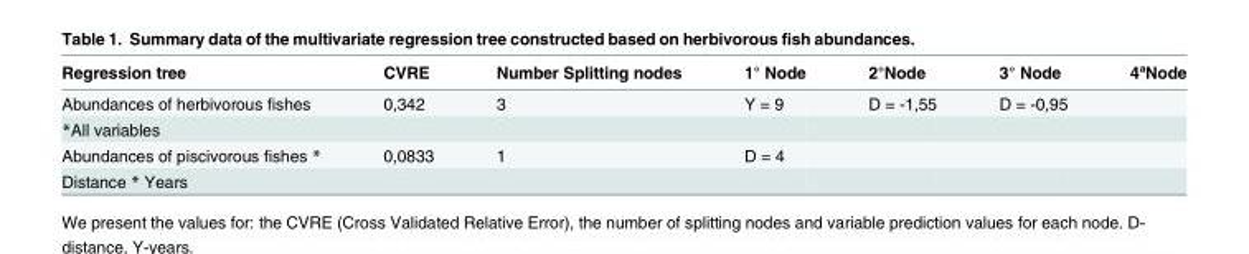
<table><thead><tr><td>Regression tree</td><td>CVRE</td><td>Number Splitting nodes</td><td>1° Node</td><td>2°Node</td><td>3° Node</td><td>4ªNode</td></tr></thead><tbody><tr><td>Abundances of herbivorous fishes</td><td>0,342</td><td>3</td><td>Y = 9</td><td>D = -1,55</td><td>D = -0,95</td><td></td></tr><tr><td colspan="7">*All variables</td></tr><tr><td>Abundances of piscivorous fishes *</td><td>0,0833</td><td>1</td><td>D = 4</td><td></td><td></td><td></td></tr><tr><td>Distance * Years</td><td></td><td></td><td></td><td></td><td></td><td></td></tr></tbody></table>